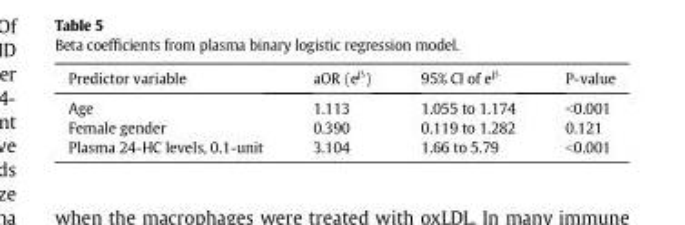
<table><thead><tr><td>Predictor variable</td><td>aOR (e<sup>β</sup>)</td><td>95% CI of e<sup>β</sup></td><td>P-value</td></tr></thead><tbody><tr><td>Age</td><td>1.113</td><td>1.055 to 1.174</td><td>&lt;0.001</td></tr><tr><td>Female gender</td><td>0.390</td><td>0.119 to 1.282</td><td>0.121</td></tr><tr><td>Plasma 24-HC levels, 0.1-unit</td><td>3.104</td><td>1.66 to 5.79</td><td>&lt;0.001</td></tr></tbody></table>